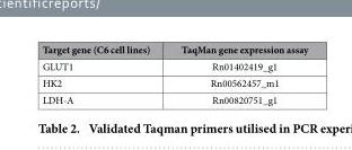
<table><thead><tr><td>Target gene (C6 cell lines)</td><td>TaqMan gene expression assay</td></tr></thead><tbody><tr><td>GLUT1</td><td>Rn01402419_g1</td></tr><tr><td>HK2</td><td>Rn00562457_m1</td></tr><tr><td>LDH-A</td><td>Rn00820751_g1</td></tr></tbody></table>